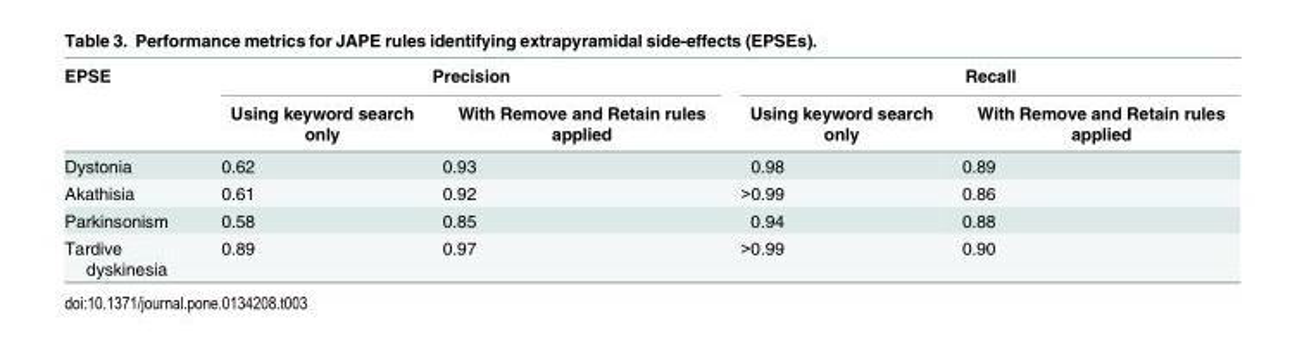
<table><thead><tr><td rowspan="2">EPSE</td><td colspan="2">Precision</td><td colspan="2">Recall</td></tr><tr><td>Using keyword search only</td><td>With Remove and Retain rules applied</td><td>Using keyword search only</td><td>With Remove and Retain rules applied</td></tr></thead><tbody><tr><td>Dystonia</td><td>0.62</td><td>0.93</td><td>0.98</td><td>0.89</td></tr><tr><td>Akathisia</td><td>0.61</td><td>0.92</td><td>&gt;0.99</td><td>0.86</td></tr><tr><td>Parkinsonism</td><td>0.58</td><td>0.85</td><td>0.94</td><td>0.88</td></tr><tr><td>Tardive dyskinesia</td><td>0.89</td><td>0.97</td><td>&gt;0.99</td><td>0.90</td></tr></tbody></table>